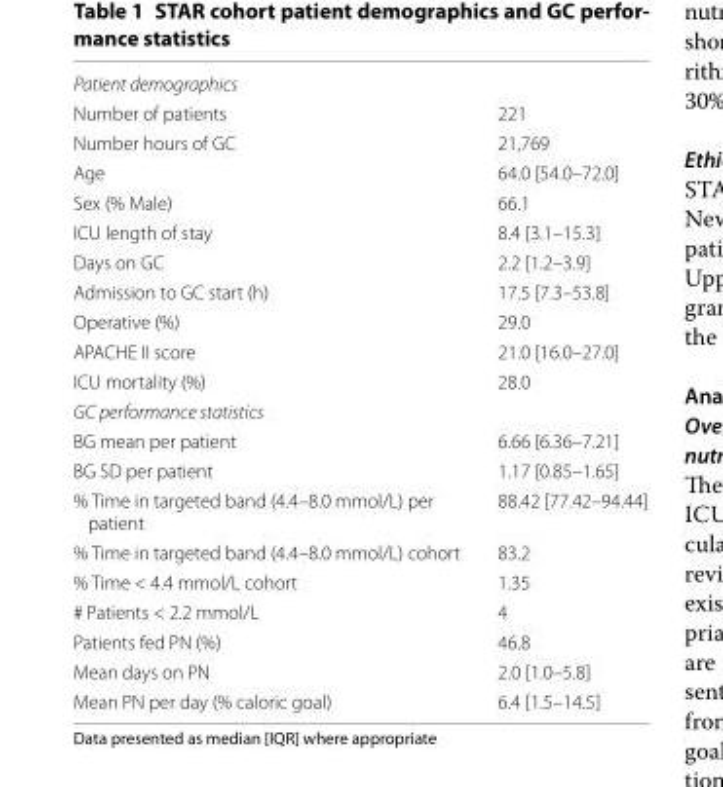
<table><tbody><tr><td colspan="2">Patient demographics</td></tr><tr><td>Number of patients</td><td>221</td></tr><tr><td>Number hours of GC</td><td>21,769</td></tr><tr><td>Age</td><td>64.0 [54.0–72.0]</td></tr><tr><td>Sex (% Male)</td><td>66.1</td></tr><tr><td>ICU length of stay</td><td>8.4 [3.1–15.3]</td></tr><tr><td>Days on GC</td><td>2.2 [1.2–3.9]</td></tr><tr><td>Admission to GC start (h)</td><td>17.5 [7.3–53.8]</td></tr><tr><td>Operative (%)</td><td>29.0</td></tr><tr><td>APACHE II score</td><td>21.0 [16.0–27.0]</td></tr><tr><td>ICU mortality (%)</td><td>28.0</td></tr><tr><td colspan="2">GC performance statistics</td></tr><tr><td>BG mean per patient</td><td>6.66 [6.36–7.21]</td></tr><tr><td>BG SD per patient</td><td>1.17 [0.85–1.65]</td></tr><tr><td>% Time in targeted band (4.4–8.0 mmol/L) per patient</td><td>88.42 [77.42–94.44]</td></tr><tr><td>% Time in targeted band (4.4–8.0 mmol/L) cohort</td><td>83.2</td></tr><tr><td>% Time &lt; 4.4 mmol/L cohort</td><td>1.35</td></tr><tr><td># Patients &lt; 2.2 mmol/L</td><td>4</td></tr><tr><td>Patients fed PN (%)</td><td>46.8</td></tr><tr><td>Mean days on PN</td><td>2.0 [1.0–5.8]</td></tr><tr><td>Mean PN per day (% caloric goal)</td><td>6.4 [1.5–14.5]</td></tr></tbody></table>